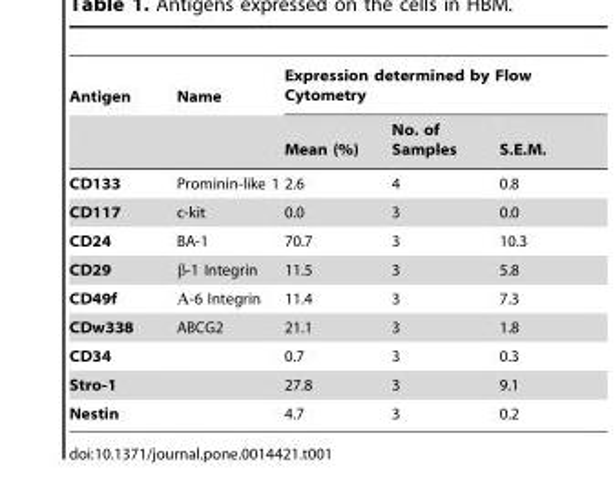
<table><thead><tr><td rowspan="2">Antigen</td><td rowspan="2">Name</td><td colspan="3">Expression determined by Flow Cytometry</td></tr><tr><td>Mean (%)</td><td>No. of Samples</td><td>S.E.M.</td></tr></thead><tbody><tr><td>CD133</td><td>Prominin-like 1</td><td>2.6</td><td>4</td><td>0.8</td></tr><tr><td>CD117</td><td>c-kit</td><td>0.0</td><td>3</td><td>0.0</td></tr><tr><td>CD24</td><td>BA-1</td><td>70.7</td><td>3</td><td>10.3</td></tr><tr><td>CD29</td><td>β-1 Integrin</td><td>11.5</td><td>3</td><td>5.8</td></tr><tr><td>CD49f</td><td>A-6 Integrin</td><td>11.4</td><td>3</td><td>7.3</td></tr><tr><td>CDw338</td><td>ABCG2</td><td>21.1</td><td>3</td><td>1.8</td></tr><tr><td>CD34</td><td></td><td>0.7</td><td>3</td><td>0.3</td></tr><tr><td>Stro-1</td><td></td><td>27.8</td><td>3</td><td>9.1</td></tr><tr><td>Nestin</td><td></td><td>4.7</td><td>3</td><td>0.2</td></tr></tbody></table>